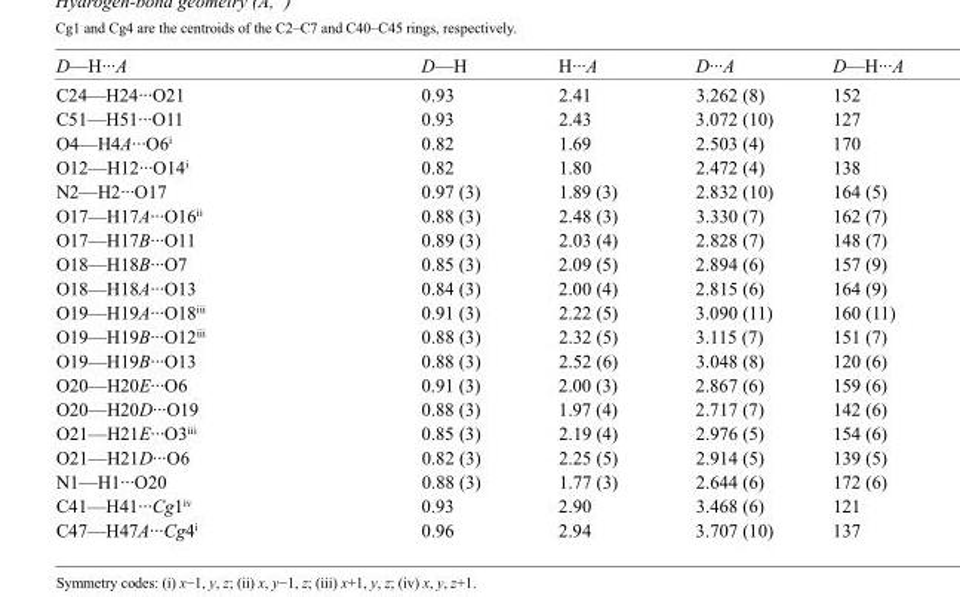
<table><tbody><tr><td>D—H···A</td><td>D—H</td><td>H···A</td><td>D···A</td><td>D—H···A</td></tr><tr><td>C24—H24···O21</td><td>0.93</td><td>2.41</td><td>3.262 (8)</td><td>152</td></tr><tr><td>C51—H51···O11</td><td>0.93</td><td>2.43</td><td>3.072 (10)</td><td>127</td></tr><tr><td>O4—H4A···O6<sup>i</sup></td><td>0.82</td><td>1.69</td><td>2.503 (4)</td><td>170</td></tr><tr><td>O12—H12···O14<sup>i</sup></td><td>0.82</td><td>1.80</td><td>2.472 (4)</td><td>138</td></tr><tr><td>N2—H2···O17</td><td>0.97 (3)</td><td>1.89 (3)</td><td>2.832 (10)</td><td>164 (5)</td></tr><tr><td>O17—H17A···O16<sup>ii</sup></td><td>0.88 (3)</td><td>2.48 (3)</td><td>3.330 (7)</td><td>162 (7)</td></tr><tr><td>O17—H17B···O11</td><td>0.89 (3)</td><td>2.03 (4)</td><td>2.828 (7)</td><td>148 (7)</td></tr><tr><td>O18—H18B···O7</td><td>0.85 (3)</td><td>2.09 (5)</td><td>2.894 (6)</td><td>157 (9)</td></tr><tr><td>O18—H18A···O13</td><td>0.84 (3)</td><td>2.00 (4)</td><td>2.815 (6)</td><td>164 (9)</td></tr><tr><td>O19—H19A···O18<sup>iii</sup></td><td>0.91 (3)</td><td>2.22 (5)</td><td>3.090 (11)</td><td>160 (11)</td></tr><tr><td>O19—H19B···O12<sup>iii</sup></td><td>0.88 (3)</td><td>2.32 (5)</td><td>3.115 (7)</td><td>151 (7)</td></tr><tr><td>O19—H19B···O13</td><td>0.88 (3)</td><td>2.52 (6)</td><td>3.048 (8)</td><td>120 (6)</td></tr><tr><td>O20—H20E···O6</td><td>0.91 (3)</td><td>2.00 (3)</td><td>2.867 (6)</td><td>159 (6)</td></tr><tr><td>O20—H20D···O19</td><td>0.88 (3)</td><td>1.97 (4)</td><td>2.717 (7)</td><td>142 (6)</td></tr><tr><td>O21—H21E···O3<sup>iii</sup></td><td>0.85 (3)</td><td>2.19 (4)</td><td>2.976 (5)</td><td>154 (6)</td></tr><tr><td>O21—H21D···O6</td><td>0.82 (3)</td><td>2.25 (5)</td><td>2.914 (5)</td><td>139 (5)</td></tr><tr><td>N1—H1···O20</td><td>0.88 (3)</td><td>1.77 (3)</td><td>2.644 (6)</td><td>172 (6)</td></tr><tr><td>C41—H41···Cg1<sup>iv</sup></td><td>0.93</td><td>2.90</td><td>3.468 (6)</td><td>121</td></tr><tr><td>C47—H47A···Cg4<sup>i</sup></td><td>0.96</td><td>2.94</td><td>3.707 (10)</td><td>137</td></tr></tbody></table>